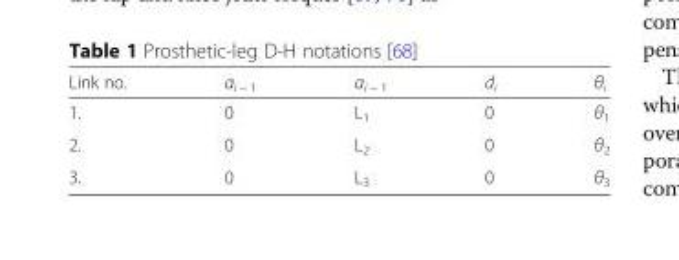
<table><thead><tr><td>Link no.</td><td>α<sub>i − 1</sub></td><td>α<sub>i − 1</sub></td><td>d<sub>i</sub></td><td>θ<sub>i</sub></td></tr></thead><tbody><tr><td>1.</td><td>0</td><td>L<sub>1</sub></td><td>0</td><td>θ<sub>1</sub></td></tr><tr><td>2.</td><td>0</td><td>L<sub>2</sub></td><td>0</td><td>θ<sub>2</sub></td></tr><tr><td>3.</td><td>0</td><td>L<sub>3</sub></td><td>0</td><td>θ<sub>3</sub></td></tr></tbody></table>